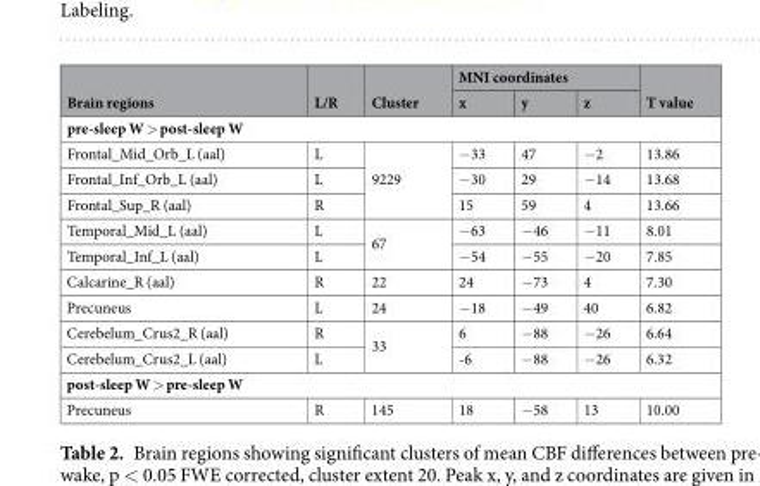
<table><thead><tr><td rowspan="2">Brain regions</td><td rowspan="2">L/R</td><td rowspan="2">Cluster</td><td colspan="3">MNI coordinates</td><td rowspan="2">T value</td></tr><tr><td>x</td><td>y</td><td>z</td></tr></thead><tbody><tr><td colspan="7">pre-sleep W &gt; post-sleep W</td></tr><tr><td>Frontal_Mid_Orb_L (aal)</td><td>L</td><td rowspan="3">9229</td><td>−33</td><td>47</td><td>−2</td><td>13.86</td></tr><tr><td>Frontal_Inf_Orb_L (aal)</td><td>L</td><td>−30</td><td>29</td><td>−14</td><td>13.68</td></tr><tr><td>Frontal_Sup_R (aal)</td><td>R</td><td>15</td><td>59</td><td>4</td><td>13.66</td></tr><tr><td>Temporal_Mid_L (aal)</td><td>L</td><td rowspan="2">67</td><td>−63</td><td>−46</td><td>−11</td><td>8.01</td></tr><tr><td>Temporal_Inf_L (aal)</td><td>L</td><td>−54</td><td>−55</td><td>−20</td><td>7.85</td></tr><tr><td>Calcarine_R (aal)</td><td>R</td><td>22</td><td>24</td><td>−73</td><td>4</td><td>7.30</td></tr><tr><td>Precuneus</td><td>L</td><td>24</td><td>−18</td><td>−49</td><td>40</td><td>6.82</td></tr><tr><td>Cerebelum_Crus2_R (aal)</td><td>R</td><td rowspan="2">33</td><td>6</td><td>−88</td><td>−26</td><td>6.64</td></tr><tr><td>Cerebelum_Crus2_L (aal)</td><td>L</td><td>-6</td><td>−88</td><td>−26</td><td>6.32</td></tr><tr><td colspan="7">post-sleep W &gt; pre-sleep W</td></tr><tr><td>Precuneus</td><td>R</td><td>145</td><td>18</td><td>−58</td><td>13</td><td>10.00</td></tr></tbody></table>